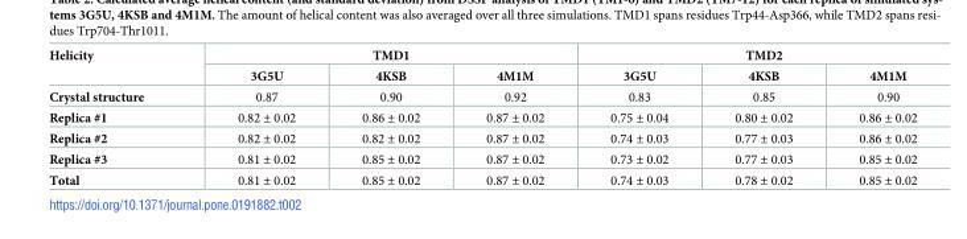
<table><thead><tr><td rowspan="2">Helicity</td><td colspan="3">TMD1</td><td colspan="3">TMD2</td></tr><tr><td>3G5U</td><td>4KSB</td><td>4M1M</td><td>3G5U</td><td>4KSB</td><td>4M1M</td></tr></thead><tbody><tr><td>Crystal structure</td><td>0.87</td><td>0.90</td><td>0.92</td><td>0.83</td><td>0.85</td><td>0.90</td></tr><tr><td>Replica #1</td><td>0.82 ± 0.02</td><td>0.86 ± 0.02</td><td>0.87 ± 0.02</td><td>0.75 ± 0.04</td><td>0.80 ± 0.02</td><td>0.86 ± 0.02</td></tr><tr><td>Replica #2</td><td>0.82 ± 0.02</td><td>0.82 ± 0.02</td><td>0.87 ± 0.02</td><td>0.74 ± 0.03</td><td>0.77 ± 0.03</td><td>0.86 ± 0.02</td></tr><tr><td>Replica #3</td><td>0.81 ± 0.02</td><td>0.85 ± 0.02</td><td>0.87 ± 0.02</td><td>0.73 ± 0.02</td><td>0.77 ± 0.03</td><td>0.85 ± 0.02</td></tr><tr><td>Total</td><td>0.81 ± 0.02</td><td>0.85 ± 0.02</td><td>0.87 ± 0.02</td><td>0.74 ± 0.03</td><td>0.78 ± 0.02</td><td>0.85 ± 0.02</td></tr></tbody></table>